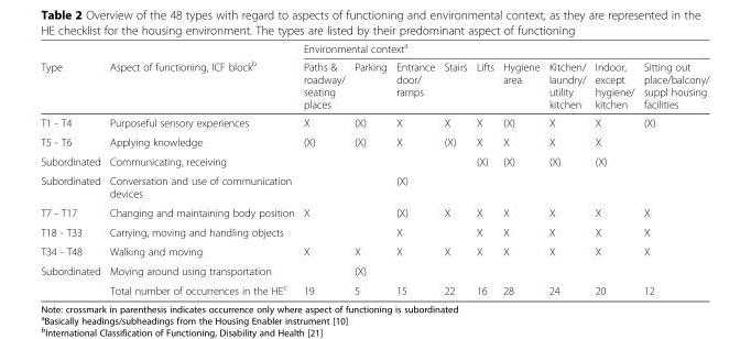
<table><thead><tr><td rowspan="2">Type</td><td rowspan="2">Aspect of functioning, ICF block<sup>b</sup></td><td colspan="9">Environmental context<sup>a</sup></td></tr><tr><td>Paths &amp; roadway/ seating places</td><td>Parking</td><td>Entrance door/ ramps</td><td>Stairs</td><td>Lifts</td><td>Hygiene area</td><td>Kitchen/ laundry/ utility kitchen</td><td>Indoor, except hygiene/ kitchen</td><td>Sitting out place/balcony/ suppl housing facilities</td></tr></thead><tbody><tr><td>T1 - T4</td><td>Purposeful sensory experiences</td><td>X</td><td>(X)</td><td>X</td><td>X</td><td>X</td><td>(X)</td><td>X</td><td>X</td><td>(X)</td></tr><tr><td>T5 - T6</td><td>Applying knowledge</td><td>(X)</td><td>(X)</td><td>X</td><td>(X)</td><td>X</td><td>X</td><td>X</td><td>X</td><td></td></tr><tr><td>Subordinated</td><td>Communicating, receiving</td><td></td><td></td><td></td><td></td><td>(X)</td><td>(X)</td><td>(X)</td><td>(X)</td><td></td></tr><tr><td>Subordinated</td><td>Conversation and use of communication devices</td><td></td><td></td><td>(X)</td><td></td><td></td><td></td><td></td><td></td><td></td></tr><tr><td>T7 - T17</td><td>Changing and maintaining body position</td><td>X</td><td></td><td>(X)</td><td>X</td><td>X</td><td>X</td><td>X</td><td>X</td><td>X</td></tr><tr><td>T18 - T33</td><td>Carrying, moving and handling objects</td><td></td><td></td><td>X</td><td></td><td>X</td><td>X</td><td>X</td><td>X</td><td>X</td></tr><tr><td>T34 - T48</td><td>Walking and moving</td><td>X</td><td>X</td><td>X</td><td>X</td><td>X</td><td>X</td><td>X</td><td>X</td><td>X</td></tr><tr><td rowspan="2">Subordinated</td><td>Moving around using transportation</td><td></td><td>(X)</td><td></td><td></td><td></td><td></td><td></td><td></td><td></td></tr><tr><td>Total number of occurrences in the HE<sup>c</sup></td><td>19</td><td>5</td><td>15</td><td>22</td><td>16</td><td>28</td><td>24</td><td>20</td><td>12</td></tr></tbody></table>